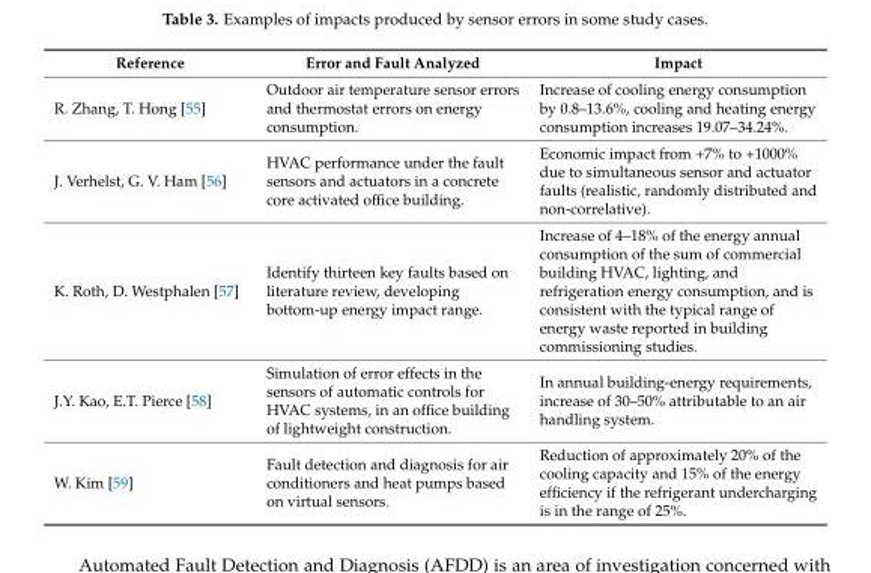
<table><thead><tr><td>Reference</td><td>Error and Fault Analyzed</td><td>Impact</td></tr></thead><tbody><tr><td>R. Zhang, T. Hong [55]</td><td>Outdoor air temperature sensor errors and thermostat errors on energy consumption.</td><td>Increase of cooling energy consumption by 0.8–13.6%, cooling and heating energy consumption increases 19.07–34.24%.</td></tr><tr><td>J. Verhelst, G. V. Ham [56]</td><td>HVAC performance under the fault sensors and actuators in a concrete core activated office building.</td><td>Economic impact from +7% to +1000% due to simultaneous sensor and actuator faults (realistic, randomly distributed and non-correlative).</td></tr><tr><td>K. Roth, D. Westphalen [57]</td><td>Identify thirteen key faults based on literature review, developing bottom-up energy impact range.</td><td>Increase of 4–18% of the energy annual consumption of the sum of commercial building HVAC, lighting, and refrigeration energy consumption, and is consistent with the typical range of energy waste reported in building commissioning studies.</td></tr><tr><td>J.Y. Kao, E.T. Pierce [58]</td><td>Simulation of error effects in the sensors of automatic controls for HVAC systems, in an office building of lightweight construction.</td><td>In annual building-energy requirements, increase of 30–50% attributable to an air handling system.</td></tr><tr><td>W. Kim [59]</td><td>Fault detection and diagnosis for air conditioners and heat pumps based on virtual sensors.</td><td>Reduction of approximately 20% of the cooling capacity and 15% of the energy efficiency if the refrigerant undercharging is in the range of 25%.</td></tr></tbody></table>